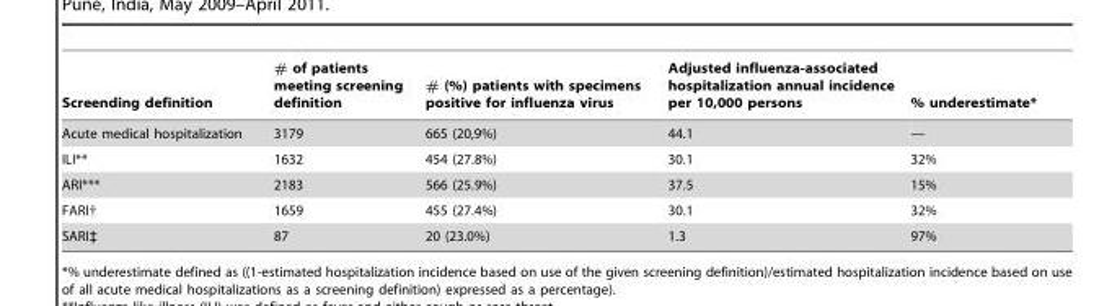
<table><thead><tr><td>Screending definition</td><td># of patients meeting screening definition</td><td># (%) patients with specimens positive for influenza virus</td><td>Adjusted influenza-associated hospitalization annual incidence per 10,000 persons</td><td>% underestimate*</td></tr></thead><tbody><tr><td>Acute medical hospitalization</td><td>3179</td><td>665 (20,9%)</td><td>44.1</td><td>—</td></tr><tr><td>ILI**</td><td>1632</td><td>454 (27.8%)</td><td>30.1</td><td>32%</td></tr><tr><td>ARI***</td><td>2183</td><td>566 (25.9%)</td><td>37.5</td><td>15%</td></tr><tr><td>FARI†</td><td>1659</td><td>455 (27.4%)</td><td>30.1</td><td>32%</td></tr><tr><td>SARI‡</td><td>87</td><td>20 (23.0%)</td><td>1.3</td><td>97%</td></tr></tbody></table>